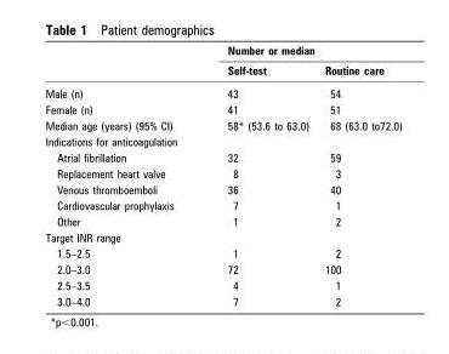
<table><thead><tr><td rowspan="2"></td><td colspan="2">Number or median</td></tr><tr><td>Self-test</td><td>Routine care</td></tr></thead><tbody><tr><td>Male (n)</td><td>43</td><td>54</td></tr><tr><td>Female (n)</td><td>41</td><td>51</td></tr><tr><td>Median age (years) (95% CI)</td><td>58* (53.6 to 63.0)</td><td>68 (63.0 to72.0)</td></tr><tr><td colspan="3">Indications for anticoagulation</td></tr><tr><td>Atrial fibrillation</td><td>32</td><td>59</td></tr><tr><td>Replacement heart valve</td><td>8</td><td>3</td></tr><tr><td>Venous thromboemboli</td><td>36</td><td>40</td></tr><tr><td>Cardiovascular prophylaxis</td><td>7</td><td>1</td></tr><tr><td>Other</td><td>1</td><td>2</td></tr><tr><td colspan="3">Target INR range</td></tr><tr><td>1.5–2.5</td><td>1</td><td>2</td></tr><tr><td>2.0–3.0</td><td>72</td><td>100</td></tr><tr><td>2.5–3.5</td><td>4</td><td>1</td></tr><tr><td>3.0–4.0</td><td>7</td><td>2</td></tr></tbody></table>